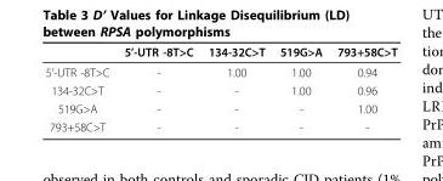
<table><thead><tr><td></td><td>5’-UTR -8T&gt;C</td><td>134-32C&gt;T</td><td>519G&gt;A</td><td>793+58C&gt;T</td></tr></thead><tbody><tr><td>5’-UTR -8T&gt;C</td><td>-</td><td>1.00</td><td>1.00</td><td>0.94</td></tr><tr><td>134-32C&gt;T</td><td>-</td><td>-</td><td>1.00</td><td>0.96</td></tr><tr><td>519G&gt;A</td><td>-</td><td>-</td><td>-</td><td>1.00</td></tr><tr><td>793+58C&gt;T</td><td>-</td><td>-</td><td>-</td><td>-</td></tr></tbody></table>